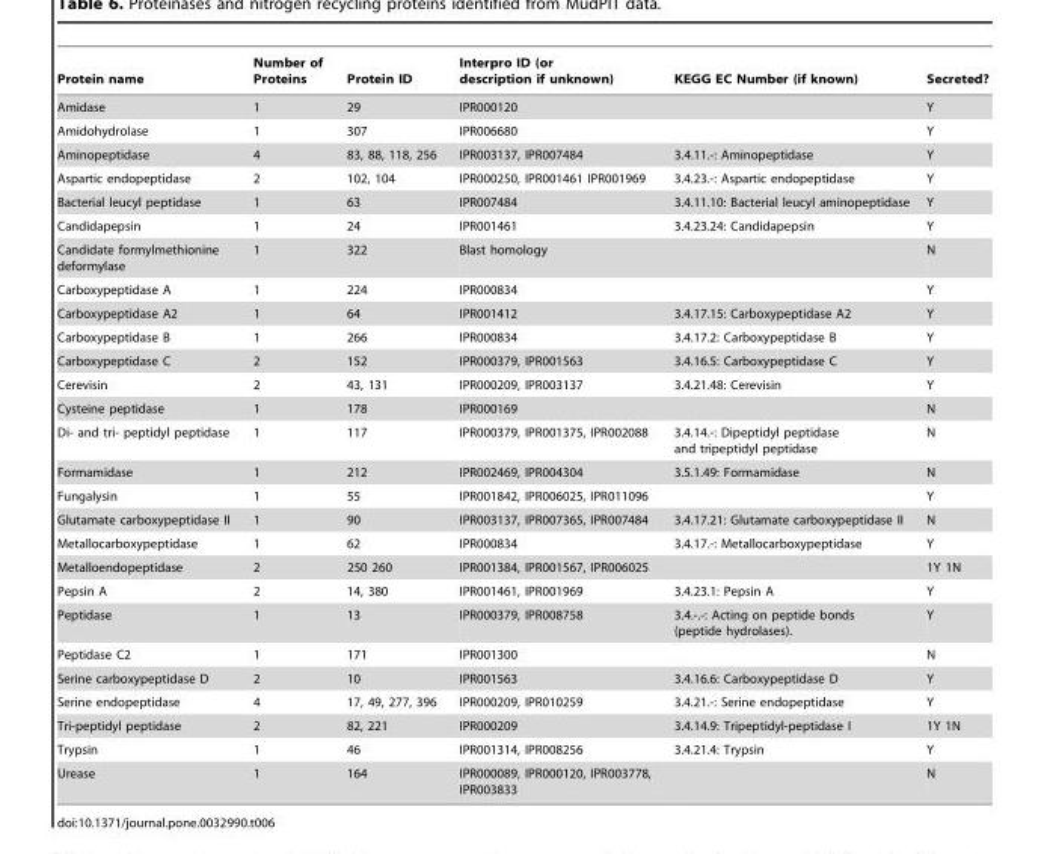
<table><thead><tr><td>Protein name</td><td>Number of Proteins</td><td>Protein ID</td><td>Interpro ID (or description if unknown)</td><td>KEGG EC Number (if known)</td><td>Secreted?</td></tr></thead><tbody><tr><td>Amidase</td><td>1</td><td>29</td><td>IPR000120</td><td></td><td>Y</td></tr><tr><td>Amidohydrolase</td><td>1</td><td>307</td><td>IPR006680</td><td></td><td>Y</td></tr><tr><td>Aminopeptidase</td><td>4</td><td>83, 88, 118, 256</td><td>IPR003137, IPR007484</td><td>3.4.11.-: Aminopeptidase</td><td>Y</td></tr><tr><td>Aspartic endopeptidase</td><td>2</td><td>102, 104</td><td>IPR000250, IPR001461 IPR001969</td><td>3.4.23.-: Aspartic endopeptidase</td><td>Y</td></tr><tr><td>Bacterial leucyl peptidase</td><td>1</td><td>63</td><td>IPR007484</td><td>3.4.11.10: Bacterial leucyl aminopeptidase</td><td>Y</td></tr><tr><td>Candidapepsin</td><td>1</td><td>24</td><td>IPR001461</td><td>3.4.23.24: Candidapepsin</td><td>Y</td></tr><tr><td>Candidate formylmethionine deformylase</td><td>1</td><td>322</td><td>Blast homology</td><td></td><td>N</td></tr><tr><td>Carboxypeptidase A</td><td>1</td><td>224</td><td>IPR000834</td><td></td><td>Y</td></tr><tr><td>Carboxypeptidase A2</td><td>1</td><td>64</td><td>IPR001412</td><td>3.4.17.15: Carboxypeptidase A2</td><td>Y</td></tr><tr><td>Carboxypeptidase B</td><td>1</td><td>266</td><td>IPR000834</td><td>3.4.17.2: Carboxypeptidase B</td><td>Y</td></tr><tr><td>Carboxypeptidase C</td><td>2</td><td>152</td><td>IPR000379, IPR001563</td><td>3.4.16.5: Carboxypeptidase C</td><td>Y</td></tr><tr><td>Cerevisin</td><td>2</td><td>43, 131</td><td>IPR000209, IPR003137</td><td>3.4.21.48: Cerevisin</td><td>Y</td></tr><tr><td>Cysteine peptidase</td><td>1</td><td>178</td><td>IPR000169</td><td></td><td>N</td></tr><tr><td>Di- and tri- peptidyl peptidase</td><td>1</td><td>117</td><td>IPR000379, IPR001375, IPR002088</td><td>3.4.14.-: Dipeptidyl peptidase and tripeptidyl peptidase</td><td>N</td></tr><tr><td>Formamidase</td><td>1</td><td>212</td><td>IPR002469, IPR004304</td><td>3.5.1.49: Formamidase</td><td>N</td></tr><tr><td>Fungalysin</td><td>1</td><td>55</td><td>IPR001842, IPR006025, IPR011096</td><td></td><td>Y</td></tr><tr><td>Glutamate carboxypeptidase II</td><td>1</td><td>90</td><td>IPR003137, IPR007365, IPR007484</td><td>3.4.17.21: Glutamate carboxypeptidase II</td><td>N</td></tr><tr><td>Metallocarboxypeptidase</td><td>1</td><td>62</td><td>IPR000834</td><td>3.4.17.-: Metallocarboxypeptidase</td><td>Y</td></tr><tr><td>Metalloendopeptidase</td><td>2</td><td>250 260</td><td>IPR001384, IPR001567, IPR006025</td><td></td><td>1Y 1N</td></tr><tr><td>Pepsin A</td><td>2</td><td>14, 380</td><td>IPR001461, IPR001969</td><td>3.4.23.1: Pepsin A</td><td>Y</td></tr><tr><td>Peptidase</td><td>1</td><td>13</td><td>IPR000379, IPR008758</td><td>3.4.-.-: Acting on peptide bonds (peptide hydrolases).</td><td>Y</td></tr><tr><td>Peptidase C2</td><td>1</td><td>171</td><td>IPR001300</td><td></td><td>N</td></tr><tr><td>Serine carboxypeptidase D</td><td>2</td><td>10</td><td>IPR001563</td><td>3.4.16.6: Carboxypeptidase D</td><td>Y</td></tr><tr><td>Serine endopeptidase</td><td>4</td><td>17, 49, 277, 396</td><td>IPR000209, IPR010259</td><td>3.4.21.-: Serine endopeptidase</td><td>Y</td></tr><tr><td>Tri-peptidyl peptidase</td><td>2</td><td>82, 221</td><td>IPR000209</td><td>3.4.14.9: Tripeptidyl-peptidase I</td><td>1Y 1N</td></tr><tr><td>Trypsin</td><td>1</td><td>46</td><td>IPR001314, IPR008256</td><td>3.4.21.4: Trypsin</td><td>Y</td></tr><tr><td>Urease</td><td>1</td><td>164</td><td>IPR000089, IPR000120, IPR003778, IPR003833</td><td></td><td>N</td></tr></tbody></table>